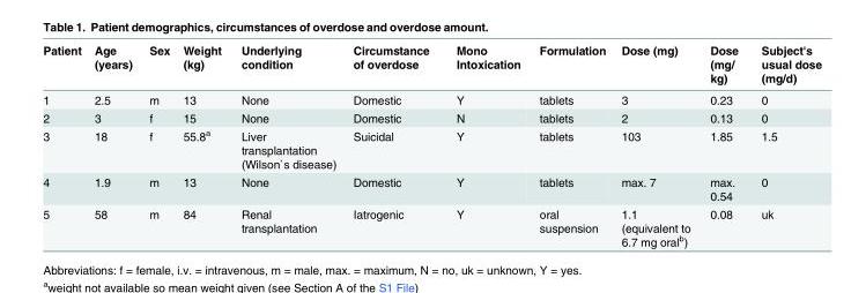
<table><thead><tr><td>Patient</td><td>Age (years)</td><td>Sex</td><td>Weight (kg)</td><td>Underlying condition</td><td>Circumstance of overdose</td><td>Mono Intoxication</td><td>Formulation</td><td>Dose (mg)</td><td>Dose (mg/ kg)</td><td>Subject&#x27;s usual dose (mg/d)</td></tr></thead><tbody><tr><td>1</td><td>2.5</td><td>m</td><td>13</td><td>None</td><td>Domestic</td><td>Y</td><td>tablets</td><td>3</td><td>0.23</td><td>0</td></tr><tr><td>2</td><td>3</td><td>f</td><td>15</td><td>None</td><td>Domestic</td><td>N</td><td>tablets</td><td>2</td><td>0.13</td><td>0</td></tr><tr><td>3</td><td>18</td><td>f</td><td>55.8<sup>a</sup></td><td>Liver transplantation (Wilson`s disease)</td><td>Suicidal</td><td>Y</td><td>tablets</td><td>103</td><td>1.85</td><td>1.5</td></tr><tr><td>4</td><td>1.9</td><td>m</td><td>13</td><td>None</td><td>Domestic</td><td>Y</td><td>tablets</td><td>max. 7</td><td>max. 0.54</td><td>0</td></tr><tr><td>5</td><td>58</td><td>m</td><td>84</td><td>Renal transplantation</td><td>Iatrogenic</td><td>Y</td><td>oral suspension</td><td>1.1 (equivalent to 6.7 mg oral<sup>b</sup>)</td><td>0.08</td><td>uk</td></tr></tbody></table>